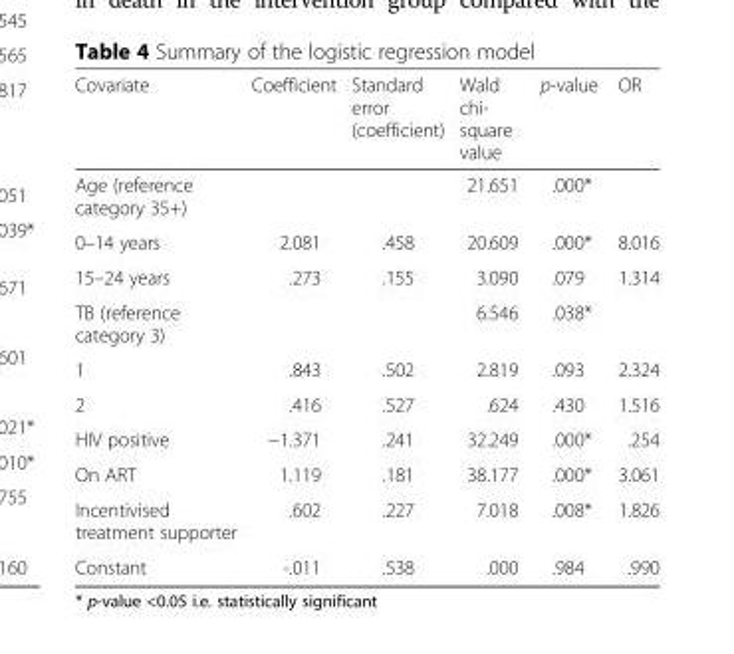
<table><thead><tr><td>Covariate</td><td>Coefficient</td><td>Standard error (coefficient)</td><td>Wald chi- square value</td><td>p-value</td><td>OR</td></tr></thead><tbody><tr><td>Age (reference category 35+)</td><td></td><td></td><td>21.651</td><td>.000*</td><td></td></tr><tr><td>0–14 years</td><td>2.081</td><td>.458</td><td>20.609</td><td>.000*</td><td>8.016</td></tr><tr><td>15–24 years</td><td>.273</td><td>.155</td><td>3.090</td><td>.079</td><td>1.314</td></tr><tr><td>TB (reference category 3)</td><td></td><td></td><td>6.546</td><td>.038*</td><td></td></tr><tr><td>1</td><td>.843</td><td>.502</td><td>2.819</td><td>.093</td><td>2.324</td></tr><tr><td>2</td><td>.416</td><td>.527</td><td>.624</td><td>.430</td><td>1.516</td></tr><tr><td>HIV positive</td><td>−1.371</td><td>.241</td><td>32.249</td><td>.000*</td><td>.254</td></tr><tr><td>On ART</td><td>1.119</td><td>.181</td><td>38.177</td><td>.000*</td><td>3.061</td></tr><tr><td>Incentivised treatment supporter</td><td>.602</td><td>.227</td><td>7.018</td><td>.008*</td><td>1.826</td></tr><tr><td>Constant</td><td>-.011</td><td>.538</td><td>.000</td><td>.984</td><td>.990</td></tr></tbody></table>